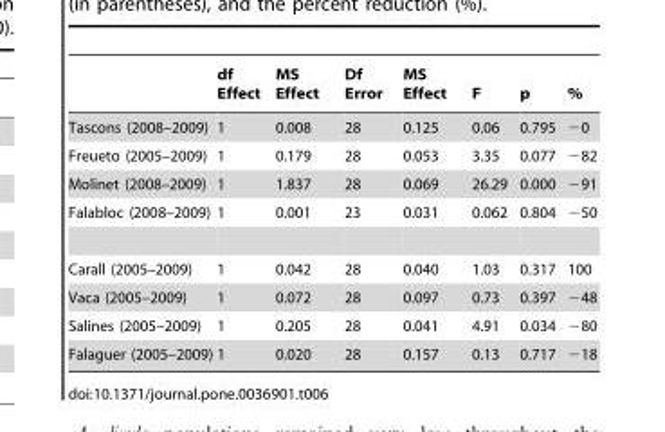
<table><thead><tr><td></td><td>df Effect</td><td>MS Effect</td><td>Df Error</td><td>MS Effect</td><td>F</td><td>p</td><td>%</td></tr></thead><tbody><tr><td>Tascons (2008–2009)</td><td>1</td><td>0.008</td><td>28</td><td>0.125</td><td>0.06</td><td>0.795</td><td>−0</td></tr><tr><td>Freueto (2005–2009)</td><td>1</td><td>0.179</td><td>28</td><td>0.053</td><td>3.35</td><td>0.077</td><td>−82</td></tr><tr><td>Molinet (2008–2009)</td><td>1</td><td>1.837</td><td>28</td><td>0.069</td><td>26.29</td><td>0.000</td><td>−91</td></tr><tr><td>Falabloc (2008–2009)</td><td>1</td><td>0.001</td><td>23</td><td>0.031</td><td>0.062</td><td>0.804</td><td>−50</td></tr><tr><td>Carall (2005–2009)</td><td>1</td><td>0.042</td><td>28</td><td>0.040</td><td>1.03</td><td>0.317</td><td>100</td></tr><tr><td>Vaca (2005–2009)</td><td>1</td><td>0.072</td><td>28</td><td>0.097</td><td>0.73</td><td>0.397</td><td>−48</td></tr><tr><td>Salines (2005–2009)</td><td>1</td><td>0.205</td><td>28</td><td>0.041</td><td>4.91</td><td>0.034</td><td>−80</td></tr><tr><td>Falaguer (2005–2009)</td><td>1</td><td>0.020</td><td>28</td><td>0.157</td><td>0.13</td><td>0.717</td><td>−18</td></tr></tbody></table>